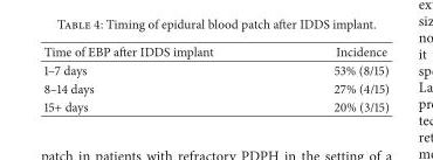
<table><thead><tr><td>Time of EBP after IDDS implant</td><td>Incidence</td></tr></thead><tbody><tr><td>1–7 days</td><td>53% (8/15)</td></tr><tr><td>8–14 days</td><td>27% (4/15)</td></tr><tr><td>15+ days</td><td>20% (3/15)</td></tr></tbody></table>